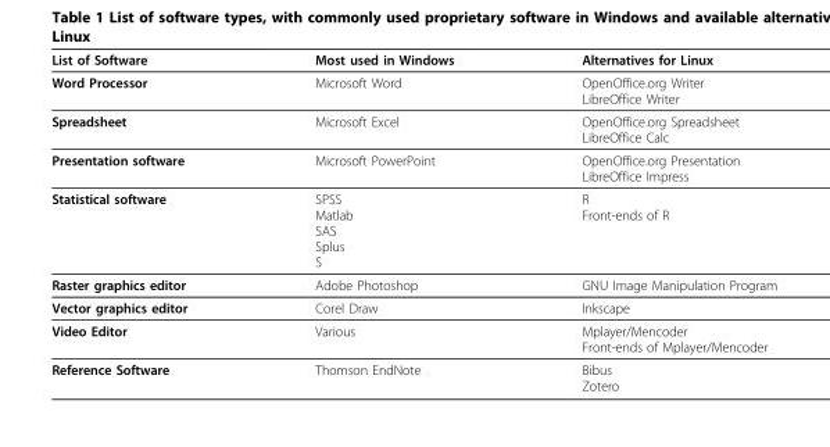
<table><thead><tr><td>List of Software</td><td>Most used in Windows</td><td>Alternatives for Linux</td></tr></thead><tbody><tr><td>Word Processor</td><td>Microsoft Word</td><td>OpenOffice.org Writer LibreOffice Writer</td></tr><tr><td>Spreadsheet</td><td>Microsoft Excel</td><td>OpenOffice.org Spreadsheet LibreOffice Calc</td></tr><tr><td>Presentation software</td><td>Microsoft PowerPoint</td><td>OpenOffice.org Presentation LibreOffice Impress</td></tr><tr><td>Statistical software</td><td>SPSS Matlab SAS Splus S</td><td>R Front-ends of R</td></tr><tr><td>Raster graphics editor</td><td>Adobe Photoshop</td><td>GNU Image Manipulation Program</td></tr><tr><td>Vector graphics editor</td><td>Corel Draw</td><td>Inkscape</td></tr><tr><td>Video Editor</td><td>Various</td><td>Mplayer/Mencoder Front-ends of Mplayer/Mencoder</td></tr><tr><td>Reference Software</td><td>Thomson EndNote</td><td>Bibus Zotero</td></tr></tbody></table>